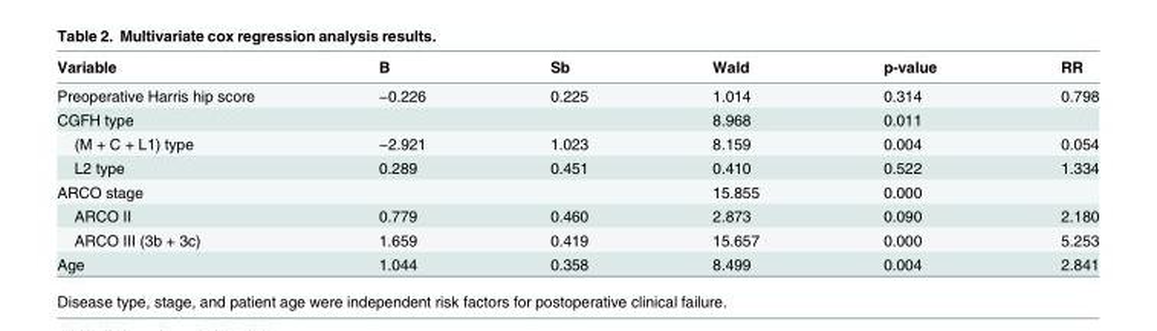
<table><thead><tr><td>Variable</td><td>B</td><td>Sb</td><td>Wald</td><td>p-value</td><td>RR</td></tr></thead><tbody><tr><td>Preoperative Harris hip score</td><td>−0.226</td><td>0.225</td><td>1.014</td><td>0.314</td><td>0.798</td></tr><tr><td>CGFH type</td><td></td><td></td><td>8.968</td><td>0.011</td><td></td></tr><tr><td>(M + C + L1) type</td><td>−2.921</td><td>1.023</td><td>8.159</td><td>0.004</td><td>0.054</td></tr><tr><td>L2 type</td><td>0.289</td><td>0.451</td><td>0.410</td><td>0.522</td><td>1.334</td></tr><tr><td>ARCO stage</td><td></td><td></td><td>15.855</td><td>0.000</td><td></td></tr><tr><td>ARCO II</td><td>0.779</td><td>0.460</td><td>2.873</td><td>0.090</td><td>2.180</td></tr><tr><td>ARCO III (3b + 3c)</td><td>1.659</td><td>0.419</td><td>15.657</td><td>0.000</td><td>5.253</td></tr><tr><td>Age</td><td>1.044</td><td>0.358</td><td>8.499</td><td>0.004</td><td>2.841</td></tr></tbody></table>